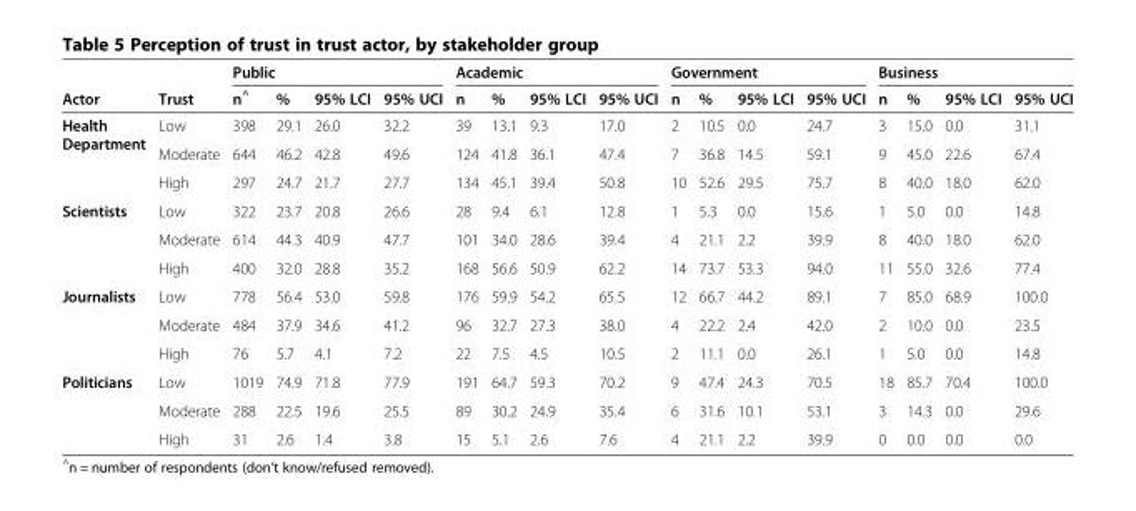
<table><thead><tr><td rowspan="2">Actor</td><td rowspan="2">Trust</td><td colspan="4">Public</td><td colspan="4">Academic</td><td colspan="4">Government</td><td colspan="4">Business</td></tr><tr><td>n^</td><td>%</td><td>95% LCI</td><td>95% UCI</td><td>n</td><td>%</td><td>95% LCI</td><td>95% UCI</td><td>n</td><td>%</td><td>95% LCI</td><td>95% UCI</td><td>n</td><td>%</td><td>95% LCI</td><td>95% UCI</td></tr></thead><tbody><tr><td rowspan="3">Health Department</td><td>Low</td><td>398</td><td>29.1</td><td>26.0</td><td>32.2</td><td>39</td><td>13.1</td><td>9.3</td><td>17.0</td><td>2</td><td>10.5</td><td>0.0</td><td>24.7</td><td>3</td><td>15.0</td><td>0.0</td><td>31.1</td></tr><tr><td>Moderate</td><td>644</td><td>46.2</td><td>42.8</td><td>49.6</td><td>124</td><td>41.8</td><td>36.1</td><td>47.4</td><td>7</td><td>36.8</td><td>14.5</td><td>59.1</td><td>9</td><td>45.0</td><td>22.6</td><td>67.4</td></tr><tr><td>High</td><td>297</td><td>24.7</td><td>21.7</td><td>27.7</td><td>134</td><td>45.1</td><td>39.4</td><td>50.8</td><td>10</td><td>52.6</td><td>29.5</td><td>75.7</td><td>8</td><td>40.0</td><td>18.0</td><td>62.0</td></tr><tr><td rowspan="3">Scientists</td><td>Low</td><td>322</td><td>23.7</td><td>20.8</td><td>26.6</td><td>28</td><td>9.4</td><td>6.1</td><td>12.8</td><td>1</td><td>5.3</td><td>0.0</td><td>15.6</td><td>1</td><td>5.0</td><td>0.0</td><td>14.8</td></tr><tr><td>Moderate</td><td>614</td><td>44.3</td><td>40.9</td><td>47.7</td><td>101</td><td>34.0</td><td>28.6</td><td>39.4</td><td>4</td><td>21.1</td><td>2.2</td><td>39.9</td><td>8</td><td>40.0</td><td>18.0</td><td>62.0</td></tr><tr><td>High</td><td>400</td><td>32.0</td><td>28.8</td><td>35.2</td><td>168</td><td>56.6</td><td>50.9</td><td>62.2</td><td>14</td><td>73.7</td><td>53.3</td><td>94.0</td><td>11</td><td>55.0</td><td>32.6</td><td>77.4</td></tr><tr><td rowspan="3">Journalists</td><td>Low</td><td>778</td><td>56.4</td><td>53.0</td><td>59.8</td><td>176</td><td>59.9</td><td>54.2</td><td>65.5</td><td>12</td><td>66.7</td><td>44.2</td><td>89.1</td><td>7</td><td>85.0</td><td>68.9</td><td>100.0</td></tr><tr><td>Moderate</td><td>484</td><td>37.9</td><td>34.6</td><td>41.2</td><td>96</td><td>32.7</td><td>27.3</td><td>38.0</td><td>4</td><td>22.2</td><td>2.4</td><td>42.0</td><td>2</td><td>10.0</td><td>0.0</td><td>23.5</td></tr><tr><td>High</td><td>76</td><td>5.7</td><td>4.1</td><td>7.2</td><td>22</td><td>7.5</td><td>4.5</td><td>10.5</td><td>2</td><td>11.1</td><td>0.0</td><td>26.1</td><td>1</td><td>5.0</td><td>0.0</td><td>14.8</td></tr><tr><td rowspan="3">Politicians</td><td>Low</td><td>1019</td><td>74.9</td><td>71.8</td><td>77.9</td><td>191</td><td>64.7</td><td>59.3</td><td>70.2</td><td>9</td><td>47.4</td><td>24.3</td><td>70.5</td><td>18</td><td>85.7</td><td>70.4</td><td>100.0</td></tr><tr><td>Moderate</td><td>288</td><td>22.5</td><td>19.6</td><td>25.5</td><td>89</td><td>30.2</td><td>24.9</td><td>35.4</td><td>6</td><td>31.6</td><td>10.1</td><td>53.1</td><td>3</td><td>14.3</td><td>0.0</td><td>29.6</td></tr><tr><td>High</td><td>31</td><td>2.6</td><td>1.4</td><td>3.8</td><td>15</td><td>5.1</td><td>2.6</td><td>7.6</td><td>4</td><td>21.1</td><td>2.2</td><td>39.9</td><td>0</td><td>0.0</td><td>0.0</td><td>0.0</td></tr></tbody></table>